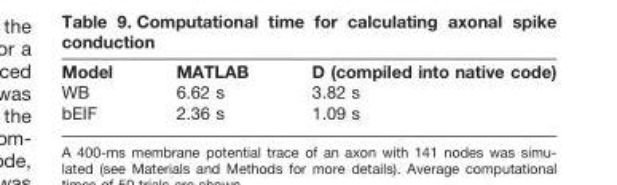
<table><thead><tr><td>Model</td><td>MATLAB</td><td>D (compiled into native code)</td></tr></thead><tbody><tr><td>WB</td><td>6.62 s</td><td>3.82 s</td></tr><tr><td>bEIF</td><td>2.36 s</td><td>1.09 s</td></tr></tbody></table>